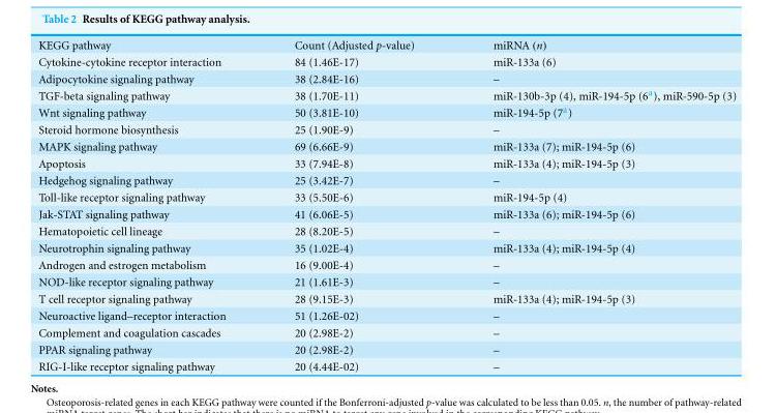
<table><tbody><tr><td>KEGG pathway</td><td>Count (Adjusted p-value)</td><td>miRNA (n)</td></tr><tr><td>Cytokine-cytokine receptor interaction</td><td>84 (1.46E-17)</td><td>miR-133a (6)</td></tr><tr><td>Adipocytokine signaling pathway</td><td>38 (2.84E-16)</td><td>–</td></tr><tr><td>TGF-beta signaling pathway</td><td>38 (1.70E-11)</td><td>miR-130b-3p (4), miR-194-5p (6<sup>a</sup>), miR-590-5p (3)</td></tr><tr><td>Wnt signaling pathway</td><td>50 (3.81E-10)</td><td>miR-194-5p (7<sup>a</sup>)</td></tr><tr><td>Steroid hormone biosynthesis</td><td>25 (1.90E-9)</td><td>–</td></tr><tr><td>MAPK signaling pathway</td><td>69 (6.66E-9)</td><td>miR-133a (7); miR-194-5p (6)</td></tr><tr><td>Apoptosis</td><td>33 (7.94E-8)</td><td>miR-133a (4); miR-194-5p (3)</td></tr><tr><td>Hedgehog signaling pathway</td><td>25 (3.42E-7)</td><td>–</td></tr><tr><td>Toll-like receptor signaling pathway</td><td>33 (5.50E-6)</td><td>miR-194-5p (4)</td></tr><tr><td>Jak-STAT signaling pathway</td><td>41 (6.06E-5)</td><td>miR-133a (6); miR-194-5p (6)</td></tr><tr><td>Hematopoietic cell lineage</td><td>28 (8.20E-5)</td><td>–</td></tr><tr><td>Neurotrophin signaling pathway</td><td>35 (1.02E-4)</td><td>miR-133a (4); miR-194-5p (4)</td></tr><tr><td>Androgen and estrogen metabolism</td><td>16 (9.00E-4)</td><td>–</td></tr><tr><td>NOD-like receptor signaling pathway</td><td>21 (1.61E-3)</td><td>–</td></tr><tr><td>T cell receptor signaling pathway</td><td>28 (9.15E-3)</td><td>miR-133a (4); miR-194-5p (3)</td></tr><tr><td>Neuroactive ligand–receptor interaction</td><td>51 (1.26E-02)</td><td>–</td></tr><tr><td>Complement and coagulation cascades</td><td>20 (2.98E-2)</td><td>–</td></tr><tr><td>PPAR signaling pathway</td><td>20 (2.98E-2)</td><td>–</td></tr><tr><td>RIG-I-like receptor signaling pathway</td><td>20 (4.44E-02)</td><td>–</td></tr></tbody></table>